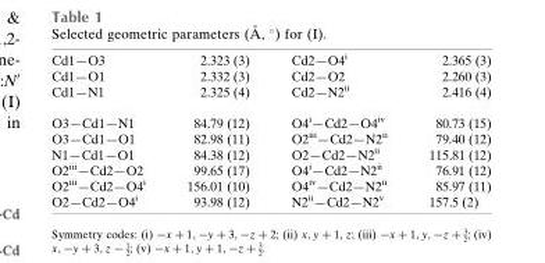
<table><tbody><tr><td>Cd1—O3</td><td>2.323 (3)</td><td>Cd2—O4<sup>i</sup></td><td>2.365 (3)</td></tr><tr><td>Cd1—O1</td><td>2.332 (3)</td><td>Cd2—O2</td><td>2.260 (3)</td></tr><tr><td>Cd1—N1</td><td>2.325 (4)</td><td>Cd2—N2<sup>ii</sup></td><td>2.416 (4)</td></tr><tr><td>O3—Cd1—N1</td><td>84.79 (12)</td><td>O4<sup>i</sup>—Cd2—O4<sup>iv</sup></td><td>80.73 (15)</td></tr><tr><td>O3—Cd1—O1</td><td>82.98 (11)</td><td>O2<sup>iii</sup>—Cd2—N2<sup>ii</sup></td><td>79.40 (12)</td></tr><tr><td>N1—Cd1—O1</td><td>84.38 (12)</td><td>O2—Cd2—N2<sup>ii</sup></td><td>115.81 (12)</td></tr><tr><td>O2<sup>iii</sup>—Cd2—O2</td><td>99.65 (17)</td><td>O4<sup>i</sup>—Cd2—N2<sup>ii</sup></td><td>76.91 (12)</td></tr><tr><td>O2<sup>iii</sup>—Cd2—O4<sup>i</sup></td><td>156.01 (10)</td><td>O4<sup>iv</sup>—Cd2—N2<sup>ii</sup></td><td>85.97 (11)</td></tr><tr><td>O2—Cd2—O4<sup>i</sup></td><td>93.98 (12)</td><td>N2<sup>ii</sup>—Cd2—N2<sup>v</sup></td><td>157.5 (2)</td></tr></tbody></table>